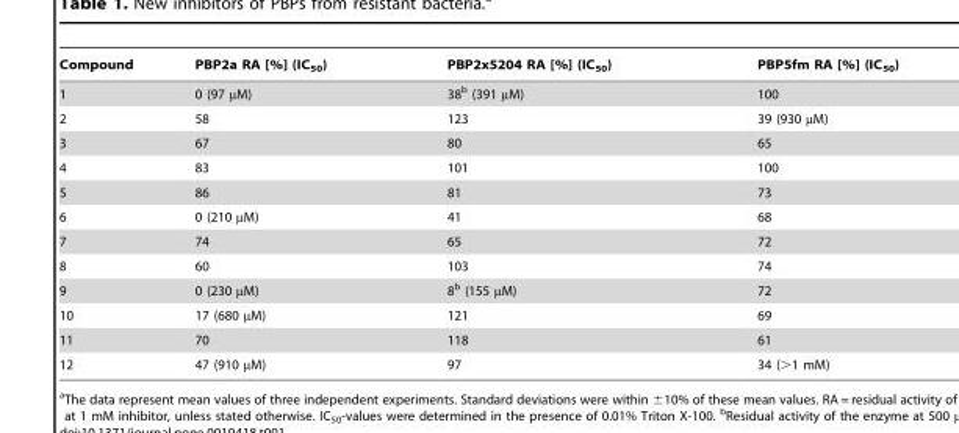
<table><thead><tr><td>Compound</td><td>PBP2a RA [%] (IC<sub>50</sub>)</td><td>PBP2x5204 RA [%] (IC<sub>50</sub>)</td><td>PBP5fm RA [%] (IC<sub>50</sub>)</td></tr></thead><tbody><tr><td>1</td><td>0 (97 µM)</td><td>38<sup>b</sup> (391 µM)</td><td>100</td></tr><tr><td>2</td><td>58</td><td>123</td><td>39 (930 µM)</td></tr><tr><td>3</td><td>67</td><td>80</td><td>65</td></tr><tr><td>4</td><td>83</td><td>101</td><td>100</td></tr><tr><td>5</td><td>86</td><td>81</td><td>73</td></tr><tr><td>6</td><td>0 (210 µM)</td><td>41</td><td>68</td></tr><tr><td>7</td><td>74</td><td>65</td><td>72</td></tr><tr><td>8</td><td>60</td><td>103</td><td>74</td></tr><tr><td>9</td><td>0 (230 µM)</td><td>8<sup>b</sup> (155 µM)</td><td>72</td></tr><tr><td>10</td><td>17 (680 µM)</td><td>121</td><td>69</td></tr><tr><td>11</td><td>70</td><td>118</td><td>61</td></tr><tr><td>12</td><td>47 (910 µM)</td><td>97</td><td>34 (&gt;1 mM)</td></tr></tbody></table>